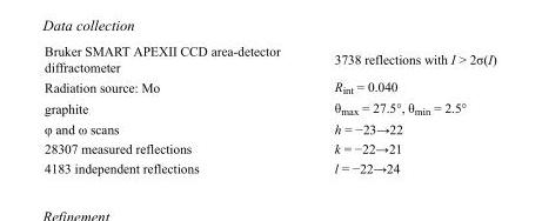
<table><tbody><tr><td>Bruker SMART APEXII CCD area-detector diffractometer</td><td>3738 reflections with I &gt; 2σ(I)</td></tr><tr><td>Radiation source: Mo</td><td>R<sub>int</sub> = 0.040</td></tr><tr><td>graphite</td><td>θ<sub>max</sub> = 27.5°, θ<sub>min</sub> = 2.5°</td></tr><tr><td>φ and ω scans</td><td>h = −23→22</td></tr><tr><td>28307 measured reflections</td><td>k = −22→21</td></tr><tr><td>4183 independent reflections</td><td>l = −22→24</td></tr></tbody></table>